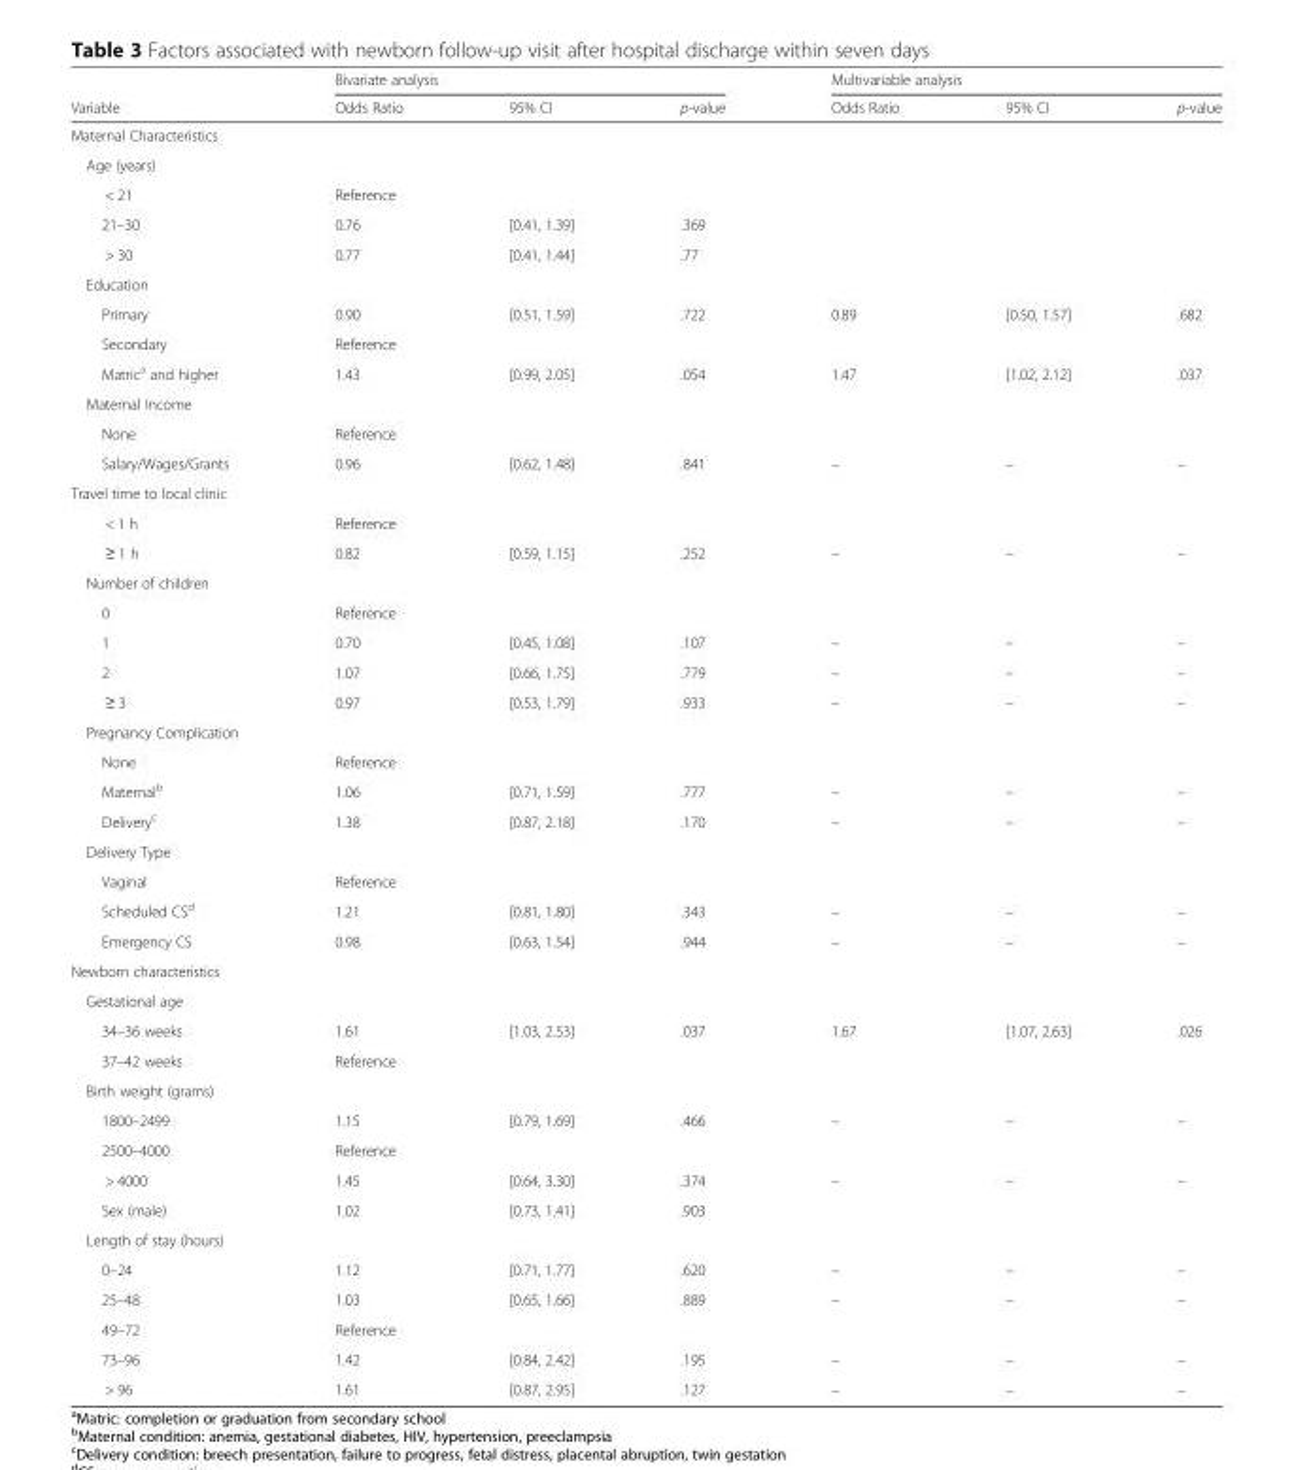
<table><thead><tr><td rowspan="2">Variable</td><td colspan="3">Bivariate analysis</td><td colspan="3">Multivariable analysis</td></tr><tr><td>Odds Ratio</td><td>95% CI</td><td>p-value</td><td>Odds Ratio</td><td>95% CI</td><td>p-value</td></tr></thead><tbody><tr><td colspan="7">Maternal Characteristics</td></tr><tr><td colspan="7">Age (years)</td></tr><tr><td>&lt; 21</td><td>Reference</td><td></td><td></td><td></td><td></td><td></td></tr><tr><td>21–30</td><td>0.76</td><td>[0.41, 1.39]</td><td>.369</td><td></td><td></td><td></td></tr><tr><td>&gt; 30</td><td>0.77</td><td>[0.41, 1.44]</td><td>.77</td><td></td><td></td><td></td></tr><tr><td colspan="7">Education</td></tr><tr><td>Primary</td><td>0.90</td><td>[0.51, 1.59]</td><td>.722</td><td>0.89</td><td>[0.50, 1.57]</td><td>.682</td></tr><tr><td>Secondary</td><td>Reference</td><td></td><td></td><td></td><td></td><td></td></tr><tr><td>Matric<sup>a</sup> and higher</td><td>1.43</td><td>[0.99, 2.05]</td><td>.054</td><td>1.47</td><td>[1.02, 2.12]</td><td>.037</td></tr><tr><td colspan="7">Maternal Income</td></tr><tr><td>None</td><td>Reference</td><td></td><td></td><td></td><td></td><td></td></tr><tr><td>Salary/Wages/Grants</td><td>0.96</td><td>[0.62, 1.48]</td><td>.841</td><td>–</td><td>–</td><td>–</td></tr><tr><td colspan="7">Travel time to local clinic</td></tr><tr><td>&lt; 1 h</td><td>Reference</td><td></td><td></td><td></td><td></td><td></td></tr><tr><td>≥ 1 h</td><td>0.82</td><td>[0.59, 1.15]</td><td>.252</td><td>–</td><td>–</td><td>–</td></tr><tr><td colspan="7">Number of children</td></tr><tr><td>0</td><td>Reference</td><td></td><td></td><td></td><td></td><td></td></tr><tr><td>1</td><td>0.70</td><td>[0.45, 1.08]</td><td>.107</td><td>–</td><td>–</td><td>–</td></tr><tr><td>2</td><td>1.07</td><td>[0.66, 1.75]</td><td>.779</td><td>–</td><td>–</td><td>–</td></tr><tr><td>≥ 3</td><td>0.97</td><td>[0.53, 1.79]</td><td>.933</td><td>–</td><td>–</td><td>–</td></tr><tr><td colspan="7">Pregnancy Complication</td></tr><tr><td>None</td><td>Reference</td><td></td><td></td><td></td><td></td><td></td></tr><tr><td>Maternal<sup>b</sup></td><td>1.06</td><td>[0.71, 1.59]</td><td>.777</td><td>–</td><td>–</td><td>–</td></tr><tr><td>Delivery<sup>c</sup></td><td>1.38</td><td>[0.87, 2.18]</td><td>.170</td><td>–</td><td>–</td><td>–</td></tr><tr><td colspan="7">Delivery Type</td></tr><tr><td>Vaginal</td><td>Reference</td><td></td><td></td><td></td><td></td><td></td></tr><tr><td>Scheduled CS<sup>d</sup></td><td>1.21</td><td>[0.81, 1.80]</td><td>.343</td><td>–</td><td>–</td><td>–</td></tr><tr><td>Emergency CS</td><td>0.98</td><td>[0.63, 1.54]</td><td>.944</td><td>–</td><td>–</td><td>–</td></tr><tr><td colspan="7">Newborn characteristics</td></tr><tr><td colspan="7">Gestational age</td></tr><tr><td>34–36 weeks</td><td>1.61</td><td>[1.03, 2.53]</td><td>.037</td><td>1.67</td><td>[1.07, 2.63]</td><td>.026</td></tr><tr><td>37–42 weeks</td><td>Reference</td><td></td><td></td><td></td><td></td><td></td></tr><tr><td colspan="7">Birth weight (grams)</td></tr><tr><td>1800–2499</td><td>1.15</td><td>[0.79, 1.69]</td><td>.466</td><td>–</td><td>–</td><td>–</td></tr><tr><td>2500–4000</td><td>Reference</td><td></td><td></td><td></td><td></td><td></td></tr><tr><td>&gt; 4000</td><td>1.45</td><td>[0.64, 3.30]</td><td>.374</td><td>–</td><td>–</td><td>–</td></tr><tr><td>Sex (male)</td><td>1.02</td><td>[0.73, 1.41]</td><td>.903</td><td></td><td></td><td></td></tr><tr><td colspan="7">Length of stay (hours)</td></tr><tr><td>0–24</td><td>1.12</td><td>[0.71, 1.77]</td><td>.620</td><td>–</td><td>–</td><td>–</td></tr><tr><td>25–48</td><td>1.03</td><td>[0.65, 1.66]</td><td>.889</td><td>–</td><td>–</td><td>–</td></tr><tr><td>49–72</td><td>Reference</td><td></td><td></td><td></td><td></td><td></td></tr><tr><td>73–96</td><td>1.42</td><td>[0.84, 2.42]</td><td>.195</td><td>–</td><td>–</td><td>–</td></tr><tr><td>&gt; 96</td><td>1.61</td><td>[0.87, 2.95]</td><td>.127</td><td>–</td><td>–</td><td>–</td></tr></tbody></table>